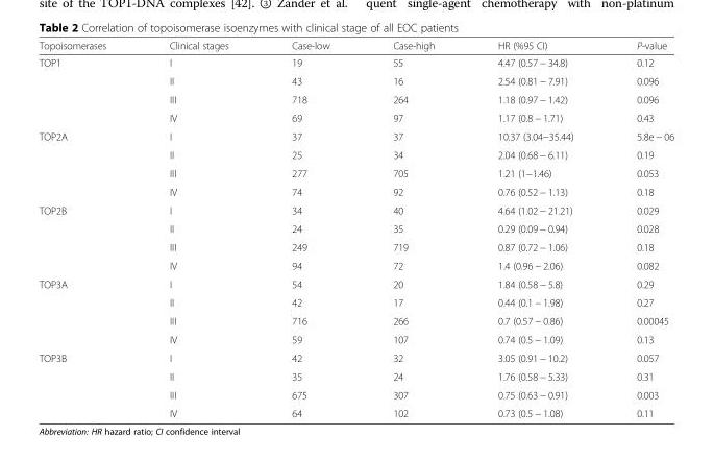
<table><thead><tr><td>Topoisomerases</td><td>Clinical stages</td><td>Case-low</td><td>Case-high</td><td>HR (%95 CI)</td><td>P-value</td></tr></thead><tbody><tr><td rowspan="4">TOP1</td><td>I</td><td>19</td><td>55</td><td>4.47 (0.57 − 34.8)</td><td>0.12</td></tr><tr><td>II</td><td>43</td><td>16</td><td>2.54 (0.81 − 7.91)</td><td>0.096</td></tr><tr><td>III</td><td>718</td><td>264</td><td>1.18 (0.97 − 1.42)</td><td>0.096</td></tr><tr><td>IV</td><td>69</td><td>97</td><td>1.17 (0.8 − 1.71)</td><td>0.43</td></tr><tr><td rowspan="4">TOP2A</td><td>I</td><td>37</td><td>37</td><td>10.37 (3.04−35.44)</td><td>5.8e − 06</td></tr><tr><td>II</td><td>25</td><td>34</td><td>2.04 (0.68 − 6.11)</td><td>0.19</td></tr><tr><td>III</td><td>277</td><td>705</td><td>1.21 (1−1.46)</td><td>0.053</td></tr><tr><td>IV</td><td>74</td><td>92</td><td>0.76 (0.52 − 1.13)</td><td>0.18</td></tr><tr><td rowspan="4">TOP2B</td><td>I</td><td>34</td><td>40</td><td>4.64 (1.02 − 21.21)</td><td>0.029</td></tr><tr><td>II</td><td>24</td><td>35</td><td>0.29 (0.09 − 0.94)</td><td>0.028</td></tr><tr><td>III</td><td>249</td><td>719</td><td>0.87 (0.72 − 1.06)</td><td>0.18</td></tr><tr><td>IV</td><td>94</td><td>72</td><td>1.4 (0.96 − 2.06)</td><td>0.082</td></tr><tr><td rowspan="4">TOP3A</td><td>I</td><td>54</td><td>20</td><td>1.84 (0.58 − 5.8)</td><td>0.29</td></tr><tr><td>II</td><td>42</td><td>17</td><td>0.44 (0.1 − 1.98)</td><td>0.27</td></tr><tr><td>III</td><td>716</td><td>266</td><td>0.7 (0.57 − 0.86)</td><td>0.00045</td></tr><tr><td>IV</td><td>59</td><td>107</td><td>0.74 (0.5 − 1.09)</td><td>0.13</td></tr><tr><td rowspan="4">TOP3B</td><td>I</td><td>42</td><td>32</td><td>3.05 (0.91 − 10.2)</td><td>0.057</td></tr><tr><td>II</td><td>35</td><td>24</td><td>1.76 (0.58 − 5.33)</td><td>0.31</td></tr><tr><td>III</td><td>675</td><td>307</td><td>0.75 (0.63 − 0.91)</td><td>0.003</td></tr><tr><td>IV</td><td>64</td><td>102</td><td>0.73 (0.5 − 1.08)</td><td>0.11</td></tr></tbody></table>